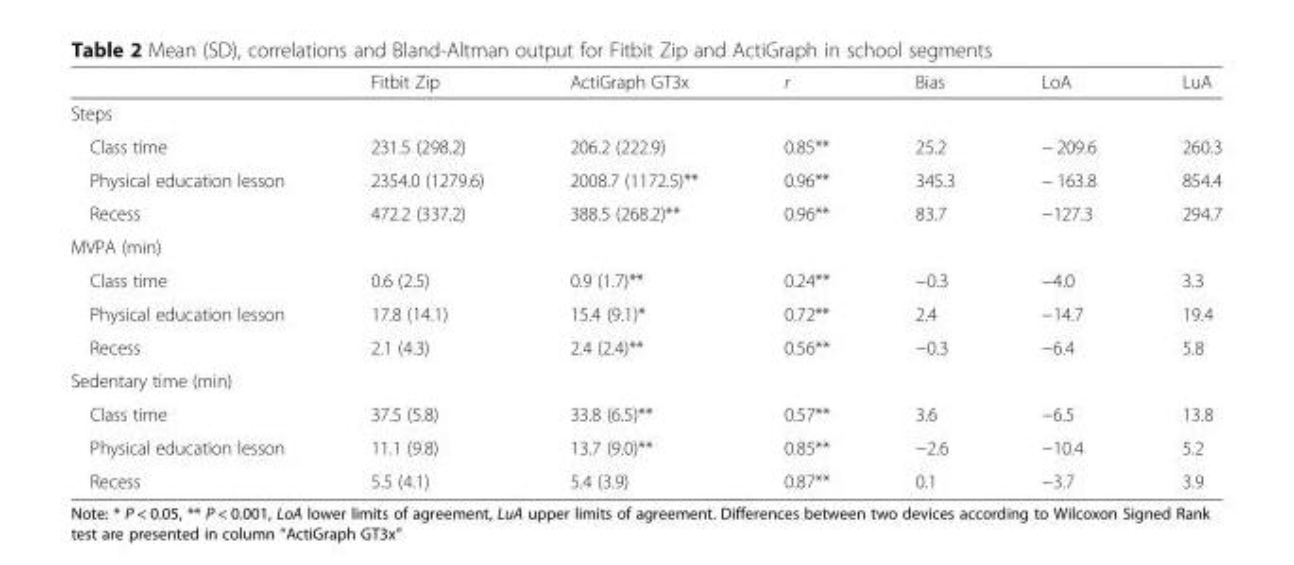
<table><thead><tr><td></td><td>Fitbit Zip</td><td>ActiGraph GT3x</td><td>r</td><td>Bias</td><td>LoA</td><td>LuA</td></tr></thead><tbody><tr><td colspan="7">Steps</td></tr><tr><td>Class time</td><td>231.5 (298.2)</td><td>206.2 (222.9)</td><td>0.85**</td><td>25.2</td><td>− 209.6</td><td>260.3</td></tr><tr><td>Physical education lesson</td><td>2354.0 (1279.6)</td><td>2008.7 (1172.5)**</td><td>0.96**</td><td>345.3</td><td>− 163.8</td><td>854.4</td></tr><tr><td>Recess</td><td>472.2 (337.2)</td><td>388.5 (268.2)**</td><td>0.96**</td><td>83.7</td><td>−127.3</td><td>294.7</td></tr><tr><td colspan="7">MVPA (min)</td></tr><tr><td>Class time</td><td>0.6 (2.5)</td><td>0.9 (1.7)**</td><td>0.24**</td><td>−0.3</td><td>−4.0</td><td>3.3</td></tr><tr><td>Physical education lesson</td><td>17.8 (14.1)</td><td>15.4 (9.1)*</td><td>0.72**</td><td>2.4</td><td>−14.7</td><td>19.4</td></tr><tr><td>Recess</td><td>2.1 (4.3)</td><td>2.4 (2.4)**</td><td>0.56**</td><td>−0.3</td><td>−6.4</td><td>5.8</td></tr><tr><td colspan="7">Sedentary time (min)</td></tr><tr><td>Class time</td><td>37.5 (5.8)</td><td>33.8 (6.5)**</td><td>0.57**</td><td>3.6</td><td>−6.5</td><td>13.8</td></tr><tr><td>Physical education lesson</td><td>11.1 (9.8)</td><td>13.7 (9.0)**</td><td>0.85**</td><td>−2.6</td><td>−10.4</td><td>5.2</td></tr><tr><td>Recess</td><td>5.5 (4.1)</td><td>5.4 (3.9)</td><td>0.87**</td><td>0.1</td><td>−3.7</td><td>3.9</td></tr></tbody></table>